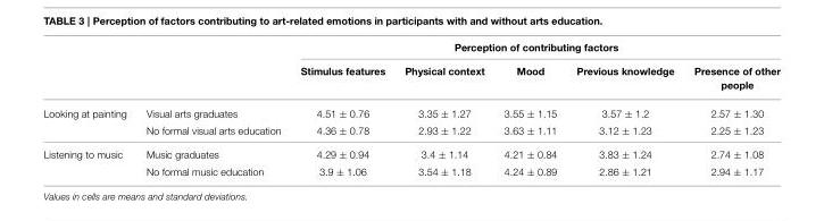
<table><thead><tr><td rowspan="2"></td><td rowspan="2"></td><td colspan="5">Perception of contributing factors</td></tr><tr><td>Stimulus features</td><td>Physical context</td><td>Mood</td><td>Previous knowledge</td><td>Presence of other people</td></tr></thead><tbody><tr><td rowspan="2">Looking at painting</td><td>Visual arts graduates</td><td>4.51 ± 0.76</td><td>3.35 ± 1.27</td><td>3.55 ± 1.15</td><td>3.57 ± 1.2</td><td>2.57 ± 1.30</td></tr><tr><td>No formal visual arts education</td><td>4.36 ± 0.78</td><td>2.93 ± 1.22</td><td>3.63 ± 1.11</td><td>3.12 ± 1.23</td><td>2.25 ± 1.23</td></tr><tr><td rowspan="2">Listening to music</td><td>Music graduates</td><td>4.29 ± 0.94</td><td>3.4 ± 1.14</td><td>4.21 ± 0.84</td><td>3.83 ± 1.24</td><td>2.74 ± 1.08</td></tr><tr><td>No formal music education</td><td>3.9 ± 1.06</td><td>3.54 ± 1.18</td><td>4.24 ± 0.89</td><td>2.86 ± 1.21</td><td>2.94 ± 1.17</td></tr></tbody></table>